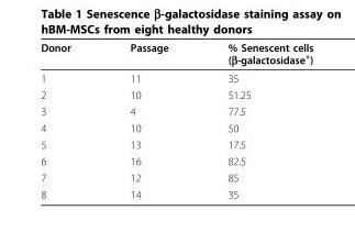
<table><thead><tr><td>Donor</td><td>Passage</td><td>% Senescent cells (β-galactosidase<sup>+</sup>)</td></tr></thead><tbody><tr><td>1</td><td>11</td><td>35</td></tr><tr><td>2</td><td>10</td><td>51.25</td></tr><tr><td>3</td><td>4</td><td>77.5</td></tr><tr><td>4</td><td>10</td><td>50</td></tr><tr><td>5</td><td>13</td><td>17.5</td></tr><tr><td>6</td><td>16</td><td>82.5</td></tr><tr><td>7</td><td>12</td><td>85</td></tr><tr><td>8</td><td>14</td><td>35</td></tr></tbody></table>